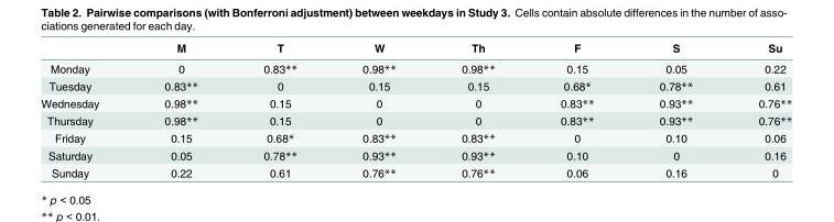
<table><thead><tr><td></td><td>M</td><td>T</td><td>W</td><td>Th</td><td>F</td><td>S</td><td>Su</td></tr></thead><tbody><tr><td>Monday</td><td>0</td><td>0.83**</td><td>0.98**</td><td>0.98**</td><td>0.15</td><td>0.05</td><td>0.22</td></tr><tr><td>Tuesday</td><td>0.83**</td><td>0</td><td>0.15</td><td>0.15</td><td>0.68*</td><td>0.78**</td><td>0.61</td></tr><tr><td>Wednesday</td><td>0.98**</td><td>0.15</td><td>0</td><td>0</td><td>0.83**</td><td>0.93**</td><td>0.76**</td></tr><tr><td>Thursday</td><td>0.98**</td><td>0.15</td><td>0</td><td>0</td><td>0.83**</td><td>0.93**</td><td>0.76**</td></tr><tr><td>Friday</td><td>0.15</td><td>0.68*</td><td>0.83**</td><td>0.83**</td><td>0</td><td>0.10</td><td>0.06</td></tr><tr><td>Saturday</td><td>0.05</td><td>0.78**</td><td>0.93**</td><td>0.93**</td><td>0.10</td><td>0</td><td>0.16</td></tr><tr><td>Sunday</td><td>0.22</td><td>0.61</td><td>0.76**</td><td>0.76**</td><td>0.06</td><td>0.16</td><td>0</td></tr></tbody></table>